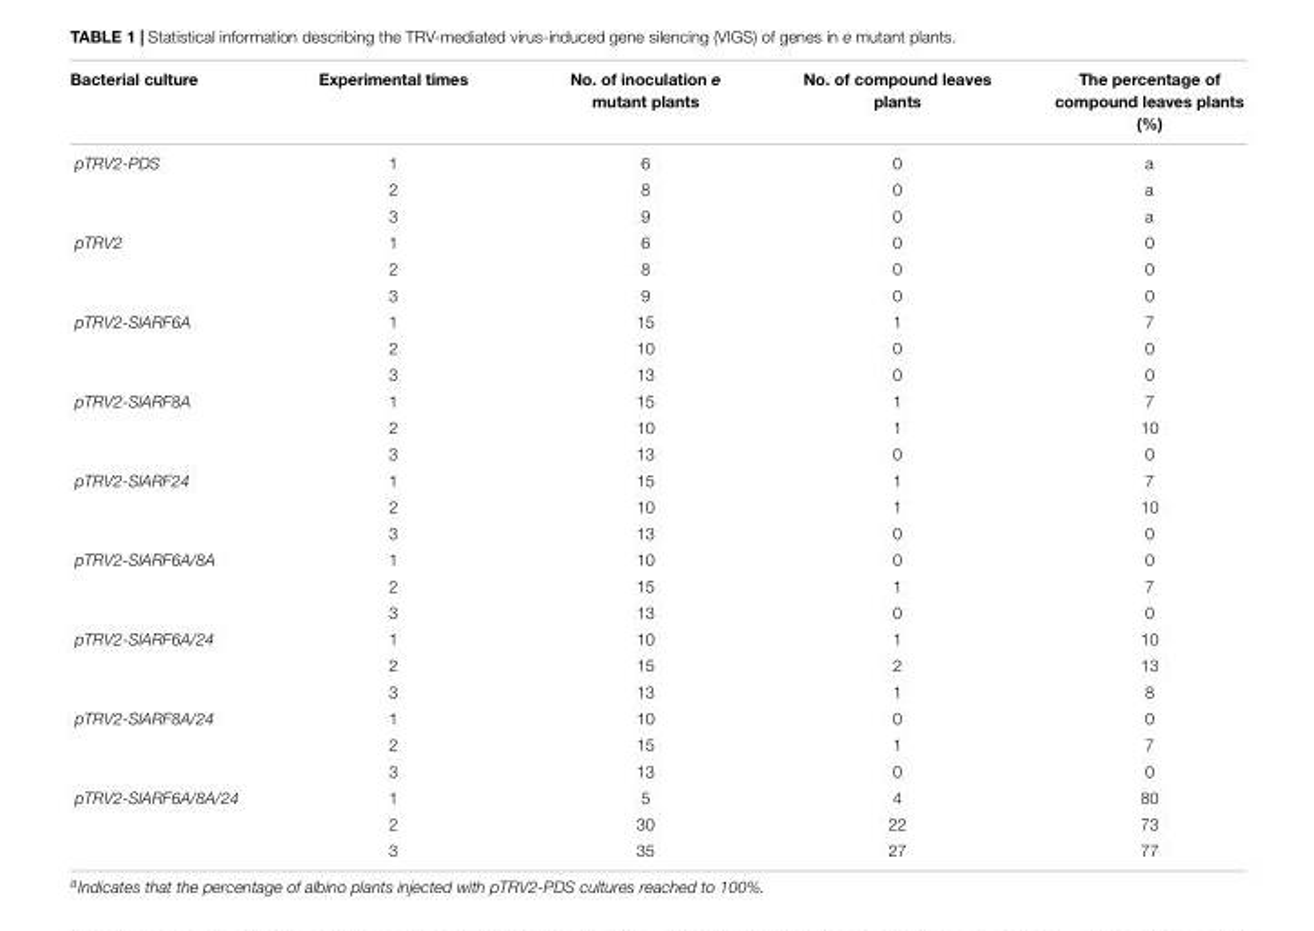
<table><thead><tr><td>Bacterial culture</td><td>Experimental times</td><td>No. of inoculation e mutant plants</td><td>No. of compound leaves plants</td><td>The percentage of compound leaves plants (%)</td></tr></thead><tbody><tr><td rowspan="3">pTRV2-PDS</td><td>1</td><td>6</td><td>0</td><td>a</td></tr><tr><td>2</td><td>8</td><td>0</td><td>a</td></tr><tr><td>3</td><td>9</td><td>0</td><td>a</td></tr><tr><td rowspan="3">pTRV2</td><td>1</td><td>6</td><td>0</td><td>0</td></tr><tr><td>2</td><td>8</td><td>0</td><td>0</td></tr><tr><td>3</td><td>9</td><td>0</td><td>0</td></tr><tr><td rowspan="3">pTRV2-SlARF6A</td><td>1</td><td>15</td><td>1</td><td>7</td></tr><tr><td>2</td><td>10</td><td>0</td><td>0</td></tr><tr><td>3</td><td>13</td><td>0</td><td>0</td></tr><tr><td rowspan="3">pTRV2-SlARF8A</td><td>1</td><td>15</td><td>1</td><td>7</td></tr><tr><td>2</td><td>10</td><td>1</td><td>10</td></tr><tr><td>3</td><td>13</td><td>0</td><td>0</td></tr><tr><td rowspan="3">pTRV2-SlARF24</td><td>1</td><td>15</td><td>1</td><td>7</td></tr><tr><td>2</td><td>10</td><td>1</td><td>10</td></tr><tr><td>3</td><td>13</td><td>0</td><td>0</td></tr><tr><td rowspan="3">pTRV2-SlARF6A/8A</td><td>1</td><td>10</td><td>0</td><td>0</td></tr><tr><td>2</td><td>15</td><td>1</td><td>7</td></tr><tr><td>3</td><td>13</td><td>0</td><td>0</td></tr><tr><td rowspan="3">pTRV2-SlARF6A/24</td><td>1</td><td>10</td><td>1</td><td>10</td></tr><tr><td>2</td><td>15</td><td>2</td><td>13</td></tr><tr><td>3</td><td>13</td><td>1</td><td>8</td></tr><tr><td rowspan="3">pTRV2-SlARF8A/24</td><td>1</td><td>10</td><td>0</td><td>0</td></tr><tr><td>2</td><td>15</td><td>1</td><td>7</td></tr><tr><td>3</td><td>13</td><td>0</td><td>0</td></tr><tr><td rowspan="3">pTRV2-SlARF6A/8A/24</td><td>1</td><td>5</td><td>4</td><td>80</td></tr><tr><td>2</td><td>30</td><td>22</td><td>73</td></tr><tr><td>3</td><td>35</td><td>27</td><td>77</td></tr></tbody></table>